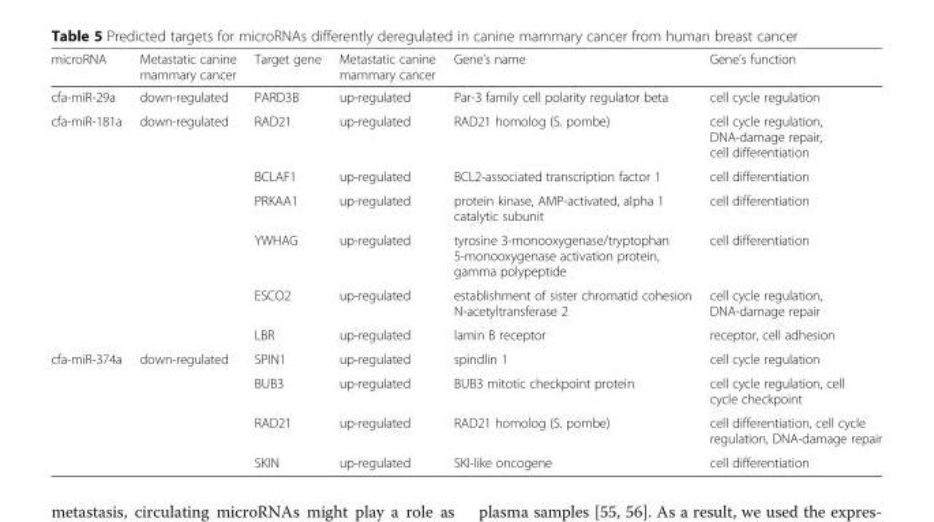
<table><thead><tr><td>microRNA</td><td>Metastatic canine mammary cancer</td><td>Target gene</td><td>Metastatic canine mammary cancer</td><td>Gene’s name</td><td>Gene’s function</td></tr></thead><tbody><tr><td>cfa-miR-29a</td><td>down-regulated</td><td>PARD3B</td><td>up-regulated</td><td>Par-3 family cell polarity regulator beta</td><td>cell cycle regulation</td></tr><tr><td rowspan="6">cfa-miR-181a</td><td rowspan="6">down-regulated</td><td>RAD21</td><td>up-regulated</td><td>RAD21 homolog (S. pombe)</td><td>cell cycle regulation, DNA-damage repair, cell differentiation</td></tr><tr><td>BCLAF1</td><td>up-regulated</td><td>BCL2-associated transcription factor 1</td><td>cell differentiation</td></tr><tr><td>PRKAA1</td><td>up-regulated</td><td>protein kinase, AMP-activated, alpha 1 catalytic subunit</td><td>cell differentiation</td></tr><tr><td>YWHAG</td><td>up-regulated</td><td>tyrosine 3-monooxygenase/tryptophan 5-monooxygenase activation protein, gamma polypeptide</td><td>cell differentiation</td></tr><tr><td>ESCO2</td><td>up-regulated</td><td>establishment of sister chromatid cohesion N-acetyltransferase 2</td><td>cell cycle regulation, DNA-damage repair</td></tr><tr><td>LBR</td><td>up-regulated</td><td>lamin B receptor</td><td>receptor, cell adhesion</td></tr><tr><td rowspan="4">cfa-miR-374a</td><td rowspan="4">down-regulated</td><td>SPIN1</td><td>up-regulated</td><td>spindlin 1</td><td>cell cycle regulation</td></tr><tr><td>BUB3</td><td>up-regulated</td><td>BUB3 mitotic checkpoint protein</td><td>cell cycle regulation, cell cycle checkpoint</td></tr><tr><td>RAD21</td><td>up-regulated</td><td>RAD21 homolog (S. pombe)</td><td>cell differentiation, cell cycle regulation, DNA-damage repair</td></tr><tr><td>SKIN</td><td>up-regulated</td><td>SKI-like oncogene</td><td>cell differentiation</td></tr></tbody></table>